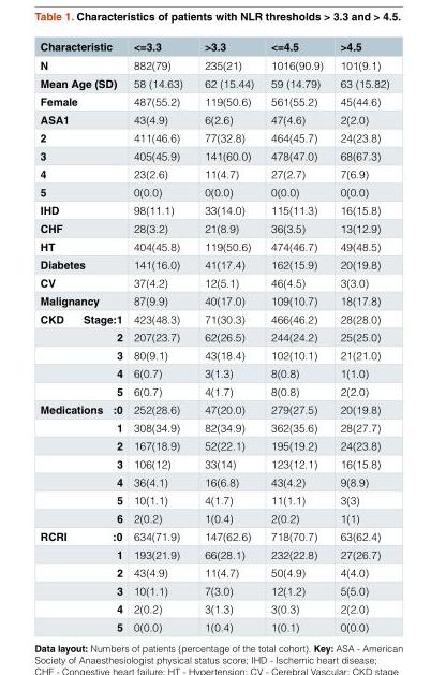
<table><thead><tr><td>Characteristic</td><td>&lt;=3.3</td><td>&gt;3.3</td><td>&lt;=4.5</td><td>&gt;4.5</td></tr></thead><tbody><tr><td>N</td><td>882(79)</td><td>235(21)</td><td>1016(90.9)</td><td>101(9.1)</td></tr><tr><td>Mean Age (SD)</td><td>58 (14.63)</td><td>62 (15.44)</td><td>59 (14.79)</td><td>63 (15.82)</td></tr><tr><td>Female</td><td>487(55.2)</td><td>119(50.6)</td><td>561(55.2)</td><td>45(44.6)</td></tr><tr><td>ASA1</td><td>43(4.9)</td><td>6(2.6)</td><td>47(4.6)</td><td>2(2.0)</td></tr><tr><td>2</td><td>411(46.6)</td><td>77(32.8)</td><td>464(45.7)</td><td>24(23.8)</td></tr><tr><td>3</td><td>405(45.9)</td><td>141(60.0)</td><td>478(47.0)</td><td>68(67.3)</td></tr><tr><td>4</td><td>23(2.6)</td><td>11(4.7)</td><td>27(2.7)</td><td>7(6.9)</td></tr><tr><td>5</td><td>0(0.0)</td><td>0(0.0)</td><td>0(0.0)</td><td>0(0.0)</td></tr><tr><td>IHD</td><td>98(11.1)</td><td>33(14.0)</td><td>115(11.3)</td><td>16(15.8)</td></tr><tr><td>CHF</td><td>28(3.2)</td><td>21(8.9)</td><td>36(3.5)</td><td>13(12.9)</td></tr><tr><td>HT</td><td>404(45.8)</td><td>119(50.6)</td><td>474(46.7)</td><td>49(48.5)</td></tr><tr><td>Diabetes</td><td>141(16.0)</td><td>41(17.4)</td><td>162(15.9)</td><td>20(19.8)</td></tr><tr><td>CV</td><td>37(4.2)</td><td>12(5.1)</td><td>46(4.5)</td><td>3(3.0)</td></tr><tr><td>Malignancy</td><td>87(9.9)</td><td>40(17.0)</td><td>109(10.7)</td><td>18(17.8)</td></tr><tr><td>CKD Stage:1</td><td>423(48.3)</td><td>71(30.3)</td><td>466(46.2)</td><td>28(28.0)</td></tr><tr><td>2</td><td>207(23.7)</td><td>62(26.5)</td><td>244(24.2)</td><td>25(25.0)</td></tr><tr><td>3</td><td>80(9.1)</td><td>43(18.4)</td><td>102(10.1)</td><td>21(21.0)</td></tr><tr><td>4</td><td>6(0.7)</td><td>3(1.3)</td><td>8(0.8)</td><td>1(1.0)</td></tr><tr><td>5</td><td>6(0.7)</td><td>4(1.7)</td><td>8(0.8)</td><td>2(2.0)</td></tr><tr><td>Medications :0</td><td>252(28.6)</td><td>47(20.0)</td><td>279(27.5)</td><td>20(19.8)</td></tr><tr><td>1</td><td>308(34.9)</td><td>82(34.9)</td><td>362(35.6)</td><td>28(27.7)</td></tr><tr><td>2</td><td>167(18.9)</td><td>52(22.1)</td><td>195(19.2)</td><td>24(23.8)</td></tr><tr><td>3</td><td>106(12)</td><td>33(14)</td><td>123(12.1)</td><td>16(15.8)</td></tr><tr><td>4</td><td>36(4.1)</td><td>16(6.8)</td><td>43(4.2)</td><td>9(8.9)</td></tr><tr><td>5</td><td>10(1.1)</td><td>4(1.7)</td><td>11(1.1)</td><td>3(3)</td></tr><tr><td>6</td><td>2(0.2)</td><td>1(0.4)</td><td>2(0.2)</td><td>1(1)</td></tr><tr><td>RCRI :0</td><td>634(71.9)</td><td>147(62.6)</td><td>718(70.7)</td><td>63(62.4)</td></tr><tr><td>1</td><td>193(21.9)</td><td>66(28.1)</td><td>232(22.8)</td><td>27(26.7)</td></tr><tr><td>2</td><td>43(4.9)</td><td>11(4.7)</td><td>50(4.9)</td><td>4(4.0)</td></tr><tr><td>3</td><td>10(1.1)</td><td>7(3.0)</td><td>12(1.2)</td><td>5(5.0)</td></tr><tr><td>4</td><td>2(0.2)</td><td>3(1.3)</td><td>3(0.3)</td><td>2(2.0)</td></tr><tr><td>5</td><td>0(0.0)</td><td>1(0.4)</td><td>1(0.1)</td><td>0(0.0)</td></tr></tbody></table>